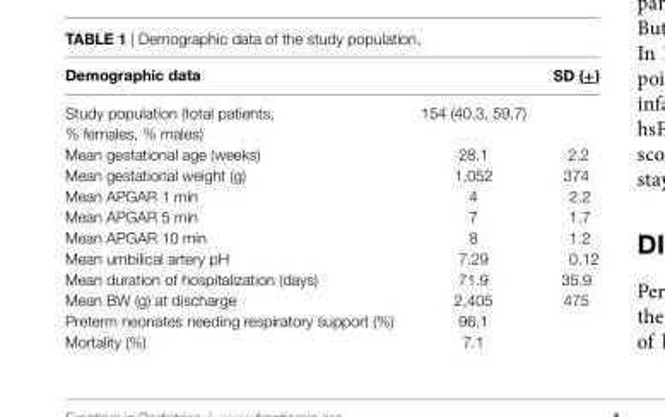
<table><thead><tr><td>Demographic data</td><td></td><td>sD (±)</td></tr></thead><tbody><tr><td>Study population (total patients, % females, % males)</td><td>154 (40.3, 59.7)</td><td></td></tr><tr><td>Mean gestational age (weeks)</td><td>28.1</td><td>2.2</td></tr><tr><td>Mean gestational weight (g)</td><td>1,052</td><td>374</td></tr><tr><td>Mean APGAR 1 min</td><td>4</td><td>2.2</td></tr><tr><td>Mean APGAR 5 min</td><td>7</td><td>1.7</td></tr><tr><td>Mean APGAR 10 min</td><td>8</td><td>1.2</td></tr><tr><td>Mean umbilical artery pH</td><td>7.29</td><td>0.12</td></tr><tr><td>Mean duration of hospitalization (days)</td><td>71.9</td><td>35.9</td></tr><tr><td>Mean BW (g) at discharge</td><td>2,405</td><td>475</td></tr><tr><td>Preterm neonates needing respiratory support (%)</td><td>96.1</td><td></td></tr><tr><td>Mortality (%)</td><td>7.1</td><td></td></tr></tbody></table>